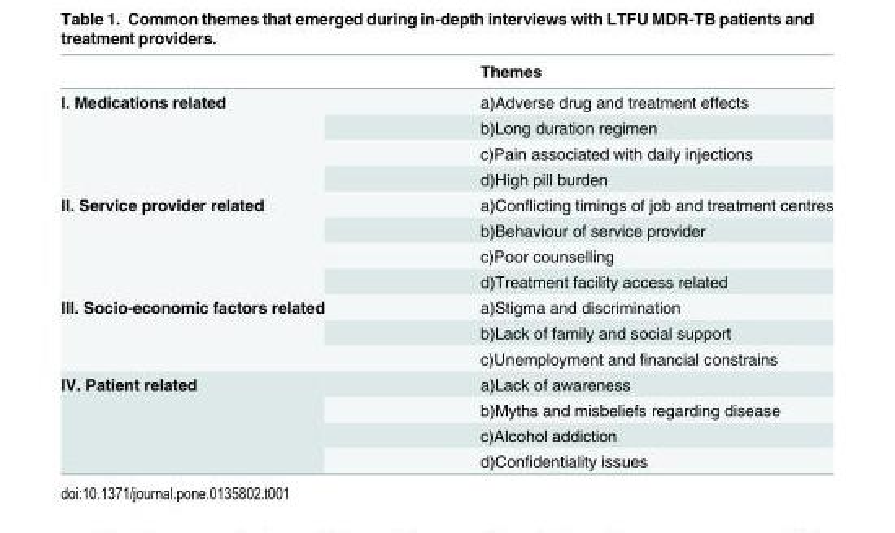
<table><thead><tr><td></td><td>Themes</td></tr></thead><tbody><tr><td rowspan="4">I. Medications related</td><td>a)Adverse drug and treatment effects</td></tr><tr><td>b)Long duration regimen</td></tr><tr><td>c)Pain associated with daily injections</td></tr><tr><td>d)High pill burden</td></tr><tr><td rowspan="4">II. Service provider related</td><td>a)Conflicting timings of job and treatment centres</td></tr><tr><td>b)Behaviour of service provider</td></tr><tr><td>c)Poor counselling</td></tr><tr><td>d)Treatment facility access related</td></tr><tr><td rowspan="3">III. Socio-economic factors related</td><td>a)Stigma and discrimination</td></tr><tr><td>b)Lack of family and social support</td></tr><tr><td>c)Unemployment and financial constrains</td></tr><tr><td rowspan="4">IV. Patient related</td><td>a)Lack of awareness</td></tr><tr><td>b)Myths and misbeliefs regarding disease</td></tr><tr><td>c)Alcohol addiction</td></tr><tr><td>d)Confidentiality issues</td></tr></tbody></table>